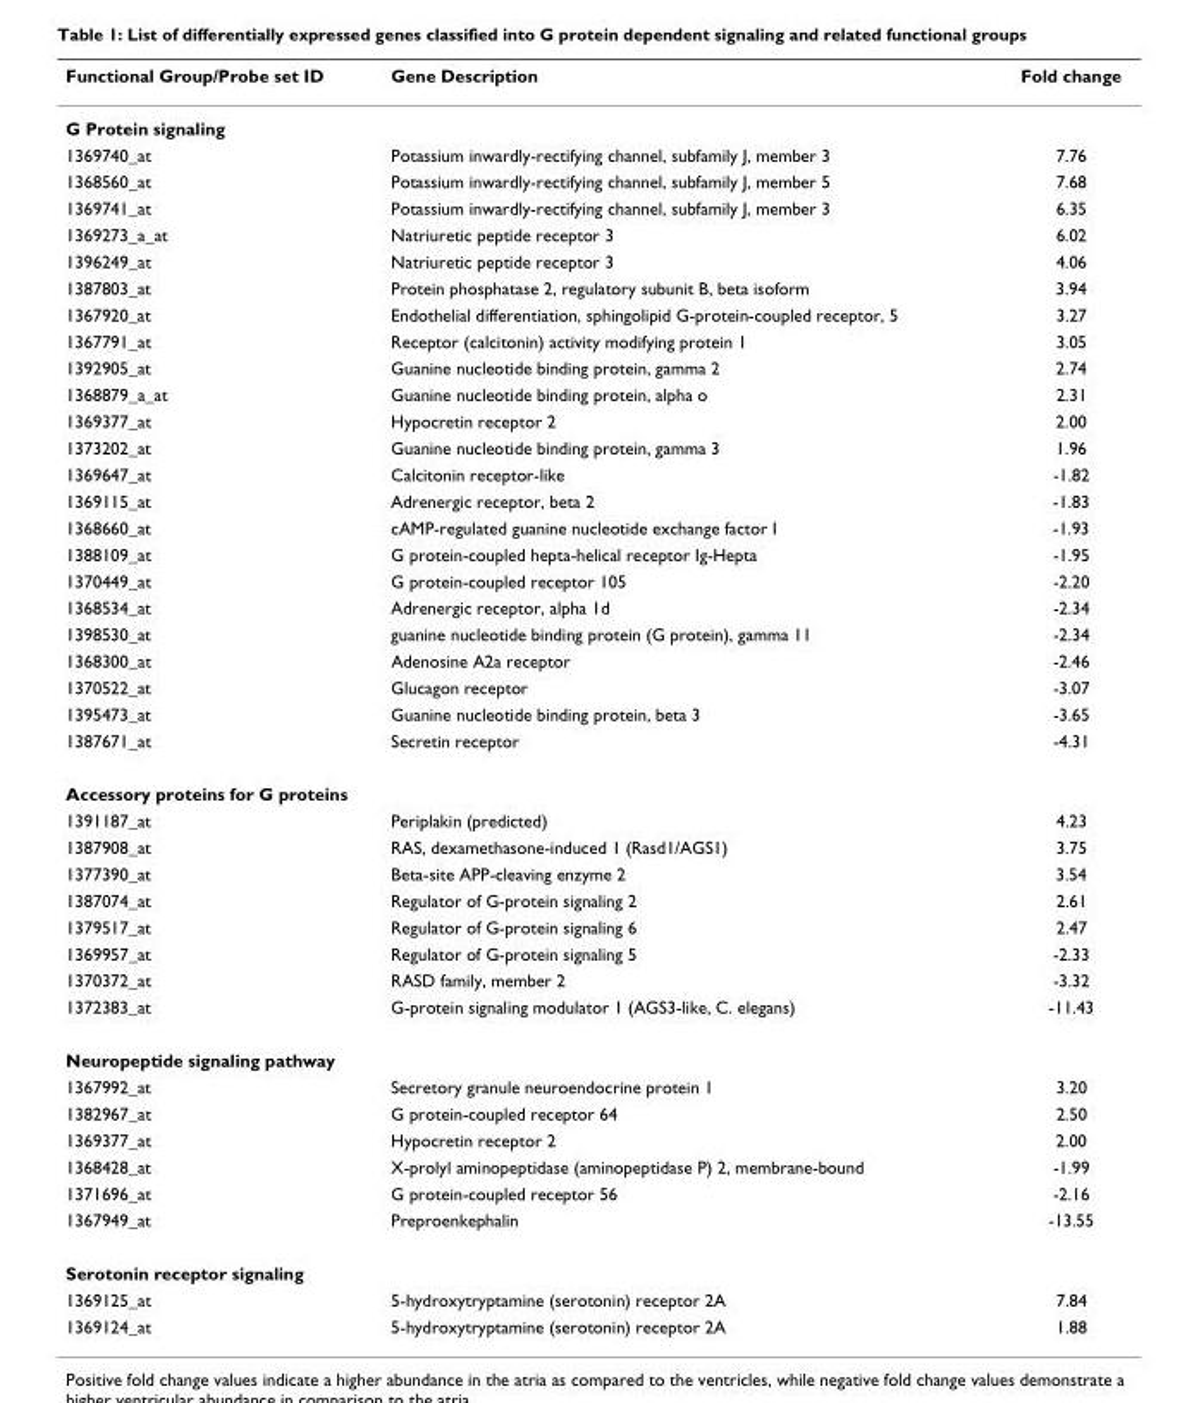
<table><thead><tr><td>Functional Group/Probe set ID</td><td>Gene Description</td><td>Fold change</td></tr></thead><tbody><tr><td colspan="3">G Protein signaling</td></tr><tr><td>1369740_at</td><td>Potassium inwardly-rectifying channel, subfamily J, member 3</td><td>7.76</td></tr><tr><td>1368560_at</td><td>Potassium inwardly-rectifying channel, subfamily J, member 5</td><td>7.68</td></tr><tr><td>1369741_at</td><td>Potassium inwardly-rectifying channel, subfamily J, member 3</td><td>6.35</td></tr><tr><td>1369273_a_at</td><td>Natriuretic peptide receptor 3</td><td>6.02</td></tr><tr><td>1396249_at</td><td>Natriuretic peptide receptor 3</td><td>4.06</td></tr><tr><td>1387803_at</td><td>Protein phosphatase 2, regulatory subunit B, beta isoform</td><td>3.94</td></tr><tr><td>1367920_at</td><td>Endothelial differentiation, sphingolipid G-protein-coupled receptor, 5</td><td>3.27</td></tr><tr><td>1367791_at</td><td>Receptor (calcitonin) activity modifying protein 1</td><td>3.05</td></tr><tr><td>1392905_at</td><td>Guanine nucleotide binding protein, gamma 2</td><td>2.74</td></tr><tr><td>1368879_a_at</td><td>Guanine nucleotide binding protein, alpha o</td><td>2.31</td></tr><tr><td>1369377_at</td><td>Hypocretin receptor 2</td><td>2.00</td></tr><tr><td>1373202_at</td><td>Guanine nucleotide binding protein, gamma 3</td><td>1.96</td></tr><tr><td>1369647_at</td><td>Calcitonin receptor-like</td><td>-1.82</td></tr><tr><td>1369115_at</td><td>Adrenergic receptor, beta 2</td><td>-1.83</td></tr><tr><td>1368660_at</td><td>cAMP-regulated guanine nucleotide exchange factor I</td><td>-1.93</td></tr><tr><td>1388109_at</td><td>G protein-coupled hepta-helical receptor Ig-Hepta</td><td>-1.95</td></tr><tr><td>1370449_at</td><td>G protein-coupled receptor 105</td><td>-2.20</td></tr><tr><td>1368534_at</td><td>Adrenergic receptor, alpha 1d</td><td>-2.34</td></tr><tr><td>1398530_at</td><td>guanine nucleotide binding protein (G protein), gamma 11</td><td>-2.34</td></tr><tr><td>1368300_at</td><td>Adenosine A2a receptor</td><td>-2.46</td></tr><tr><td>1370522_at</td><td>Glucagon receptor</td><td>-3.07</td></tr><tr><td>1395473_at</td><td>Guanine nucleotide binding protein, beta 3</td><td>-3.65</td></tr><tr><td>1387671_at</td><td>Secretin receptor</td><td>-4.31</td></tr><tr><td colspan="3">Accessory proteins for G proteins</td></tr><tr><td>1391187_at</td><td>Periplakin (predicted)</td><td>4.23</td></tr><tr><td>1387908_at</td><td>RAS, dexamethasone-induced 1 (Rasd1/AGS1)</td><td>3.75</td></tr><tr><td>1377390_at</td><td>Beta-site APP-cleaving enzyme 2</td><td>3.54</td></tr><tr><td>1387074_at</td><td>Regulator of G-protein signaling 2</td><td>2.61</td></tr><tr><td>1379517_at</td><td>Regulator of G-protein signaling 6</td><td>2.47</td></tr><tr><td>1369957_at</td><td>Regulator of G-protein signaling 5</td><td>-2.33</td></tr><tr><td>1370372_at</td><td>RASD family, member 2</td><td>-3.32</td></tr><tr><td>1372383_at</td><td>G-protein signaling modulator 1 (AGS3-like, C. elegans)</td><td>-11.43</td></tr><tr><td colspan="3">Neuropeptide signaling pathway</td></tr><tr><td>1367992_at</td><td>Secretory granule neuroendocrine protein 1</td><td>3.20</td></tr><tr><td>1382967_at</td><td>G protein-coupled receptor 64</td><td>2.50</td></tr><tr><td>1369377_at</td><td>Hypocretin receptor 2</td><td>2.00</td></tr><tr><td>1368428_at</td><td>X-prolyl aminopeptidase (aminopeptidase P) 2, membrane-bound</td><td>-1.99</td></tr><tr><td>1371696_at</td><td>G protein-coupled receptor 56</td><td>-2.16</td></tr><tr><td>1367949_at</td><td>Preproenkephalin</td><td>-13.55</td></tr><tr><td colspan="3">Serotonin receptor signaling</td></tr><tr><td>1369125_at</td><td>5-hydroxytryptamine (serotonin) receptor 2A</td><td>7.84</td></tr><tr><td>1369124_at</td><td>5-hydroxytryptamine (serotonin) receptor 2A</td><td>1.88</td></tr></tbody></table>